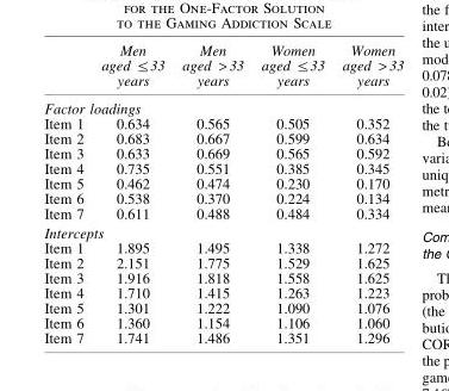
<table><thead><tr><td></td><td>Men aged ≤33 years</td><td>Men aged &gt; 33 years</td><td>Women aged ≤33 years</td><td>Women aged &gt; 33 years</td></tr></thead><tbody><tr><td colspan="5">Factor loadings</td></tr><tr><td>Item 1</td><td>0.634</td><td>0.565</td><td>0.505</td><td>0.352</td></tr><tr><td>Item 2</td><td>0.683</td><td>0.667</td><td>0.599</td><td>0.634</td></tr><tr><td>Item 3</td><td>0.633</td><td>0.669</td><td>0.565</td><td>0.592</td></tr><tr><td>Item 4</td><td>0.735</td><td>0.551</td><td>0.385</td><td>0.345</td></tr><tr><td>Item 5</td><td>0.462</td><td>0.474</td><td>0.230</td><td>0.170</td></tr><tr><td>Item 6</td><td>0.538</td><td>0.370</td><td>0.224</td><td>0.134</td></tr><tr><td>Item 7</td><td>0.611</td><td>0.488</td><td>0.484</td><td>0.334</td></tr><tr><td colspan="5">Intercepts</td></tr><tr><td>Item 1</td><td>1.895</td><td>1.495</td><td>1.338</td><td>1.272</td></tr><tr><td>Item 2</td><td>2.151</td><td>1.775</td><td>1.529</td><td>1.625</td></tr><tr><td>Item 3</td><td>1.916</td><td>1.818</td><td>1.558</td><td>1.625</td></tr><tr><td>Item 4</td><td>1.710</td><td>1.415</td><td>1.263</td><td>1.223</td></tr><tr><td>Item 5</td><td>1.301</td><td>1.222</td><td>1.090</td><td>1.076</td></tr><tr><td>Item 6</td><td>1.360</td><td>1.154</td><td>1.106</td><td>1.060</td></tr><tr><td>Item 7</td><td>1.741</td><td>1.486</td><td>1.351</td><td>1.296</td></tr></tbody></table>